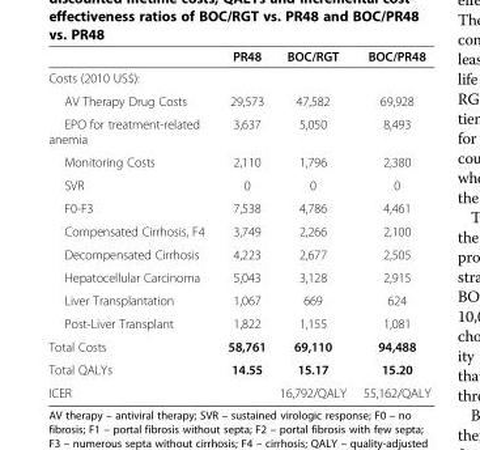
<table><thead><tr><td></td><td>PR48</td><td>BOC/RGT</td><td>BOC/PR48</td></tr></thead><tbody><tr><td colspan="4">Costs (2010 US$):</td></tr><tr><td>AV Therapy Drug Costs</td><td>29,573</td><td>47,582</td><td>69,928</td></tr><tr><td>EPO for treatment-related anemia</td><td>3,637</td><td>5,050</td><td>8,493</td></tr><tr><td>Monitoring Costs</td><td>2,110</td><td>1,796</td><td>2,380</td></tr><tr><td>SVR</td><td>0</td><td>0</td><td>0</td></tr><tr><td>F0-F3</td><td>7,538</td><td>4,786</td><td>4,461</td></tr><tr><td>Compensated Cirrhosis, F4</td><td>3,749</td><td>2,266</td><td>2,100</td></tr><tr><td>Decompensated Cirrhosis</td><td>4,223</td><td>2,677</td><td>2,505</td></tr><tr><td>Hepatocellular Carcinoma</td><td>5,043</td><td>3,128</td><td>2,915</td></tr><tr><td>Liver Transplantation</td><td>1,067</td><td>669</td><td>624</td></tr><tr><td>Post-Liver Transplant</td><td>1,822</td><td>1,155</td><td>1,081</td></tr><tr><td>Total Costs</td><td>58,761</td><td>69,110</td><td>94,488</td></tr><tr><td>Total QALYs</td><td>14.55</td><td>15.17</td><td>15.20</td></tr><tr><td>ICER</td><td></td><td>16,792/QALY</td><td>55,162/QALY</td></tr></tbody></table>